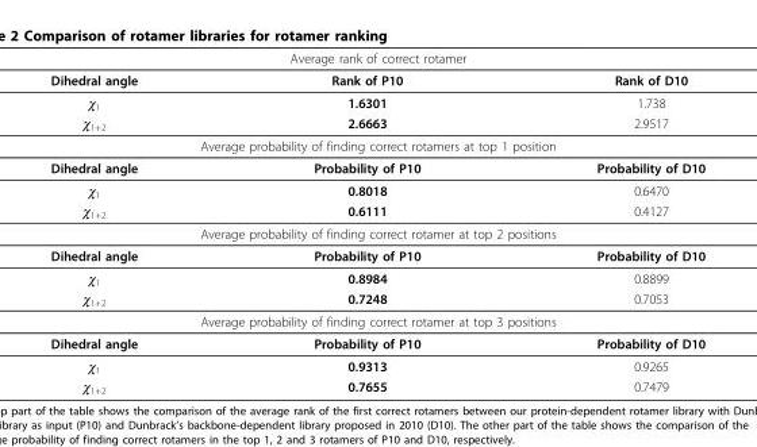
<table><thead><tr><td colspan="3">Average rank of correct rotamer</td></tr><tr><td>Dihedral angle</td><td>Rank of P10</td><td>Rank of D10</td></tr></thead><tbody><tr><td>χ<sub>1</sub></td><td>1.6301</td><td>1.738</td></tr><tr><td>χ<sub>1+2</sub></td><td>2.6663</td><td>2.9517</td></tr><tr><td colspan="3">Average probability of finding correct rotamers at top 1 position</td></tr><tr><td>Dihedral angle</td><td>Probability of P10</td><td>Probability of D10</td></tr><tr><td>χ<sub>1</sub></td><td>0.8018</td><td>0.6470</td></tr><tr><td>χ<sub>1+2</sub></td><td>0.6111</td><td>0.4127</td></tr><tr><td colspan="3">Average probability of finding correct rotamer at top 2 positions</td></tr><tr><td>Dihedral angle</td><td>Probability of P10</td><td>Probability of D10</td></tr><tr><td>χ<sub>1</sub></td><td>0.8984</td><td>0.8899</td></tr><tr><td>χ<sub>1+2</sub></td><td>0.7248</td><td>0.7053</td></tr><tr><td colspan="3">Average probability of finding correct rotamer at top 3 positions</td></tr><tr><td>Dihedral angle</td><td>Probability of P10</td><td>Probability of D10</td></tr><tr><td>χ<sub>1</sub></td><td>0.9313</td><td>0.9265</td></tr><tr><td>χ<sub>1+2</sub></td><td>0.7655</td><td>0.7479</td></tr></tbody></table>